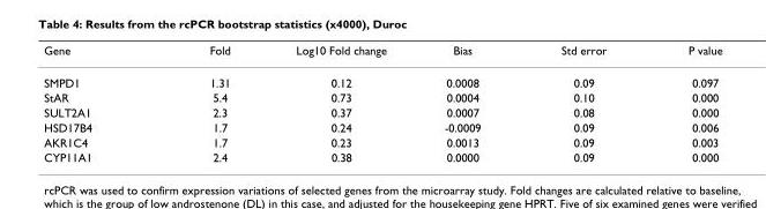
<table><thead><tr><td>Gene</td><td>Fold</td><td>Log10 Fold change</td><td>Bias</td><td>Std error</td><td>P value</td></tr></thead><tbody><tr><td>SMPD1</td><td>1.31</td><td>0.12</td><td>0.0008</td><td>0.09</td><td>0.097</td></tr><tr><td>StAR</td><td>5.4</td><td>0.73</td><td>0.0004</td><td>0.10</td><td>0.000</td></tr><tr><td>SULT2A1</td><td>2.3</td><td>0.37</td><td>0.0007</td><td>0.08</td><td>0.000</td></tr><tr><td>HSD17B4</td><td>1.7</td><td>0.24</td><td>-0.0009</td><td>0.09</td><td>0.006</td></tr><tr><td>AKR1C4</td><td>1.7</td><td>0.23</td><td>0.0013</td><td>0.09</td><td>0.003</td></tr><tr><td>CYP11A1</td><td>2.4</td><td>0.38</td><td>0.0000</td><td>0.09</td><td>0.000</td></tr></tbody></table>